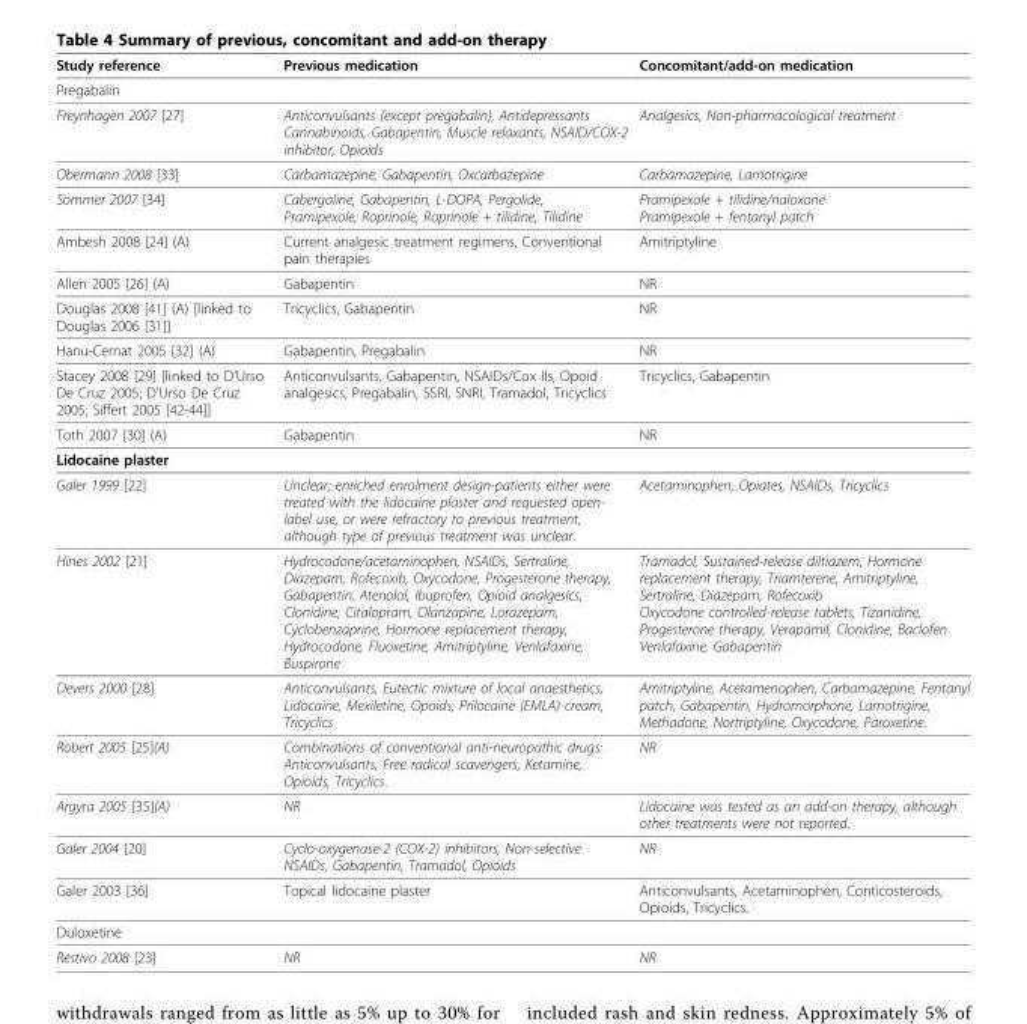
<table><thead><tr><td>Study reference</td><td>Previous medication</td><td>Concomitant/add-on medication</td></tr></thead><tbody><tr><td colspan="3">Pregabalin</td></tr><tr><td>Freynhagen 2007 [27]</td><td>Anticonvulsants (except pregabalin), Antidepressants Cannabinoids, Gabapentin, Muscle relaxants, NSAID/COX-2 inhibitor, Opioids</td><td>Analgesics, Non-pharmacological treatment</td></tr><tr><td>Obermann 2008 [33]</td><td>Carbamazepine, Gabapentin, Oxcarbazepine</td><td>Carbamazepine, Lamotrigine</td></tr><tr><td>Sommer 2007 [34]</td><td>Cabergoline, Gabapentin, L-DOPA, Pergolide, Pramipexole, Roprinole, Roprinole + tilidine, Tilidine</td><td>Pramipexole + tilidine/naloxone Pramipexole + fentanyl patch</td></tr><tr><td>Ambesh 2008 [24] (A)</td><td>Current analgesic treatment regimens, Conventional pain therapies</td><td>Amitriptyline</td></tr><tr><td>Allen 2005 [26] (A)</td><td>Gabapentin</td><td>NR</td></tr><tr><td>Douglas 2008 [41] (A) [linked to Douglas 2006 [31]]</td><td>Tricyclics, Gabapentin</td><td>NR</td></tr><tr><td>Hanu-Cernat 2005 [32] (A)</td><td>Gabapentin, Pregabalin</td><td>NR</td></tr><tr><td>Stacey 2008 [29] [linked to D’Urso De Cruz 2005; D’Urso De Cruz 2005; Siffert 2005 [42-44]]</td><td>Anticonvulsants, Gabapentin, NSAIDs/Cox IIs, Opoid analgesics, Pregabalin, SSRI, SNRI, Tramadol, Tricyclics</td><td>Tricyclics, Gabapentin</td></tr><tr><td>Toth 2007 [30] (A)</td><td>Gabapentin</td><td>NR</td></tr><tr><td colspan="3">Lidocaine plaster</td></tr><tr><td>Galer 1999 [22]</td><td>Unclear; enriched enrolment design-patients either were treated with the lidocaine plaster and requested open- label use, or were refractory to previous treatment, although type of previous treatment was unclear.</td><td>Acetaminophen, Opiates, NSAIDs, Tricyclics</td></tr><tr><td>Hines 2002 [21]</td><td>Hydrocodone/acetaminophen, NSAIDs, Sertraline, Diazepam, Rofecoxib, Oxycodone, Progesterone therapy, Gabapentin, Atenolol, Ibuprofen, Opioid analgesics, Clonidine, Citalopram, Olanzapine, Lorazepam, Cyclobenzaprine, Hormone replacement therapy, Hydrocodone, Fluoxetine, Amitriptyline, Venlafaxine, Buspirone</td><td>Tramadol, Sustained-release diltiazem, Hormone replacement therapy, Triamterene, Amitriptyline, Sertraline, Diazepam, Rofecoxib Oxycodone controlled-release tablets, Tizanidine, Progesterone therapy, Verapamil, Clonidine, Baclofen Venlafaxine, Gabapentin</td></tr><tr><td>Devers 2000 [28]</td><td>Anticonvulsants, Eutectic mixture of local anaesthetics, Lidocaine, Mexiletine, Opoids, Prilocaine (EMLA) cream, Tricyclics</td><td>Amitriptyline, Acetamenophen, Carbamazepine, Fentanyl patch, Gabapentin, Hydromorphone, Lamotrigine, Methadone, Nortriptyline, Oxycodone, Paroxetine.</td></tr><tr><td>Robert 2005 [25](A)</td><td>Combinations of conventional anti-neuropathic drugs: Anticonvulsants, Free radical scavengers, Ketamine, Opioids, Tricyclics.</td><td>NR</td></tr><tr><td>Argyra 2005 [35](A)</td><td>NR</td><td>Lidocaine was tested as an add-on therapy, although other treatments were not reported.</td></tr><tr><td>Galer 2004 [20]</td><td>Cyclo-oxygenase-2 (COX-2) inhibitors, Non-selective NSAIDs, Gabapentin, Tramadol, Opioids</td><td>NR</td></tr><tr><td>Galer 2003 [36]</td><td>Topical lidocaine plaster</td><td>Anticonvulsants, Acetaminophen, Conticosteroids, Opioids, Tricyclics.</td></tr><tr><td colspan="3">Duloxetine</td></tr><tr><td>Restivo 2008 [23]</td><td>NR</td><td>NR</td></tr></tbody></table>